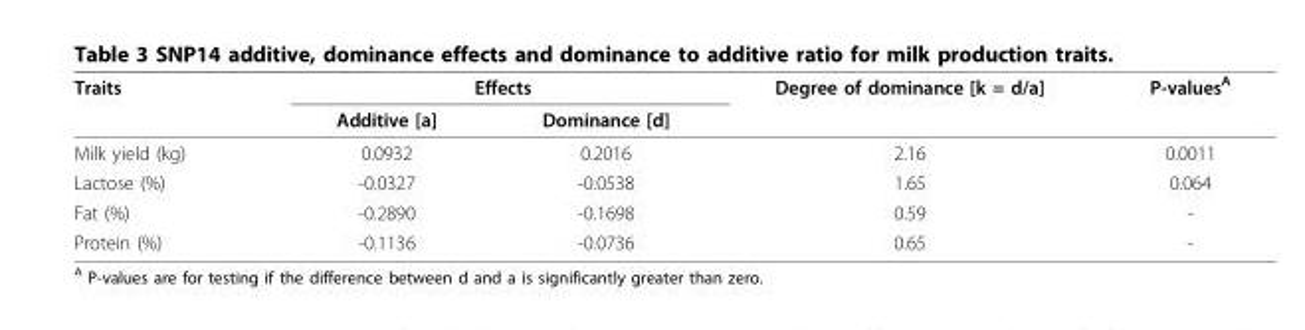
<table><thead><tr><td rowspan="2">Traits</td><td colspan="2">Effects</td><td rowspan="2">Degree of dominance [k = d/a]</td><td rowspan="2">P-values<sup>A</sup></td></tr><tr><td>Additive [a]</td><td>Dominance [d]</td></tr></thead><tbody><tr><td>Milk yield (kg)</td><td>0.0932</td><td>0.2016</td><td>2.16</td><td>0.0011</td></tr><tr><td>Lactose (%)</td><td>-0.0327</td><td>-0.0538</td><td>1.65</td><td>0.064</td></tr><tr><td>Fat (%)</td><td>-0.2890</td><td>-0.1698</td><td>0.59</td><td>-</td></tr><tr><td>Protein (%)</td><td>-0.1136</td><td>-0.0736</td><td>0.65</td><td>-</td></tr></tbody></table>